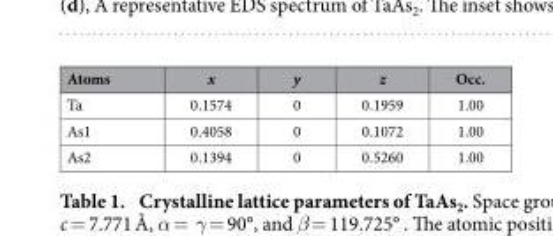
<table><thead><tr><td>Atoms</td><td>x</td><td>y</td><td>z</td><td>Occ.</td></tr></thead><tbody><tr><td>Ta</td><td>0.1574</td><td>0</td><td>0.1959</td><td>1.00</td></tr><tr><td>As1</td><td>0.4058</td><td>0</td><td>0.1072</td><td>1.00</td></tr><tr><td>As2</td><td>0.1394</td><td>0</td><td>0.5260</td><td>1.00</td></tr></tbody></table>